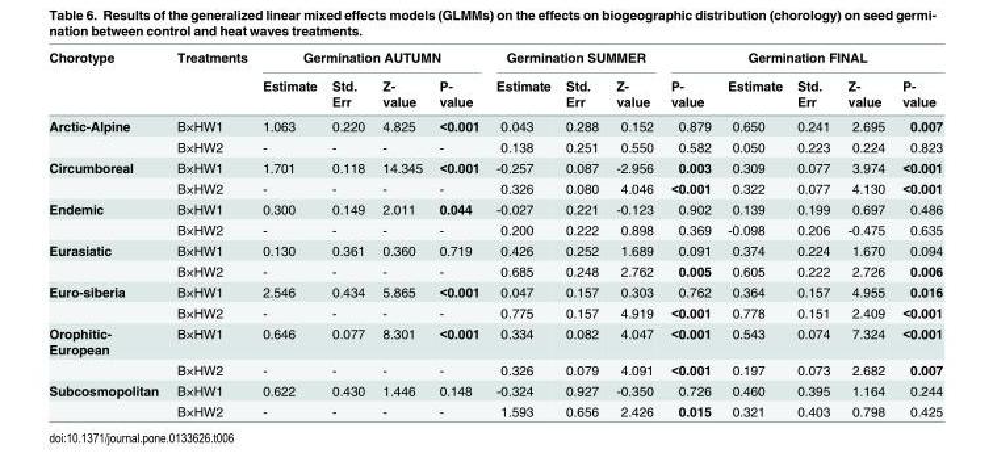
<table><thead><tr><td rowspan="2">Chorotype</td><td rowspan="2">Treatments</td><td colspan="4">Germination AUTUMN</td><td colspan="3">Germination SUMMER</td><td colspan="5">Germination FINAL</td></tr><tr><td>Estimate</td><td>Std. Err</td><td>Z- value</td><td>P- value</td><td>Estimate</td><td>Std. Err</td><td>Z- value</td><td>P- value</td><td>Estimate</td><td>Std. Err</td><td>Z- value</td><td>P- value</td></tr></thead><tbody><tr><td rowspan="2">Arctic-Alpine</td><td>B×HW1</td><td>1.063</td><td>0.220</td><td>4.825</td><td>&lt;0.001</td><td>0.043</td><td>0.288</td><td>0.152</td><td>0.879</td><td>0.650</td><td>0.241</td><td>2.695</td><td>0.007</td></tr><tr><td>B×HW2</td><td>-</td><td>-</td><td>-</td><td>-</td><td>0.138</td><td>0.251</td><td>0.550</td><td>0.582</td><td>0.050</td><td>0.223</td><td>0.224</td><td>0.823</td></tr><tr><td rowspan="2">Circumboreal</td><td>B×HW1</td><td>1.701</td><td>0.118</td><td>14.345</td><td>&lt;0.001</td><td>-0.257</td><td>0.087</td><td>-2.956</td><td>0.003</td><td>0.309</td><td>0.077</td><td>3.974</td><td>&lt;0.001</td></tr><tr><td>B×HW2</td><td>-</td><td>-</td><td>-</td><td>-</td><td>0.326</td><td>0.080</td><td>4.046</td><td>&lt;0.001</td><td>0.322</td><td>0.077</td><td>4.130</td><td>&lt;0.001</td></tr><tr><td rowspan="2">Endemic</td><td>B×HW1</td><td>0.300</td><td>0.149</td><td>2.011</td><td>0.044</td><td>-0.027</td><td>0.221</td><td>-0.123</td><td>0.902</td><td>0.139</td><td>0.199</td><td>0.697</td><td>0.486</td></tr><tr><td>B×HW2</td><td>-</td><td>-</td><td>-</td><td>-</td><td>0.200</td><td>0.222</td><td>0.898</td><td>0.369</td><td>-0.098</td><td>0.206</td><td>-0.475</td><td>0.635</td></tr><tr><td rowspan="2">Eurasiatic</td><td>B×HW1</td><td>0.130</td><td>0.361</td><td>0.360</td><td>0.719</td><td>0.426</td><td>0.252</td><td>1.689</td><td>0.091</td><td>0.374</td><td>0.224</td><td>1.670</td><td>0.094</td></tr><tr><td>B×HW2</td><td>-</td><td>-</td><td>-</td><td>-</td><td>0.685</td><td>0.248</td><td>2.762</td><td>0.005</td><td>0.605</td><td>0.222</td><td>2.726</td><td>0.006</td></tr><tr><td rowspan="2">Euro-siberia</td><td>B×HW1</td><td>2.546</td><td>0.434</td><td>5.865</td><td>&lt;0.001</td><td>0.047</td><td>0.157</td><td>0.303</td><td>0.762</td><td>0.364</td><td>0.157</td><td>4.955</td><td>0.016</td></tr><tr><td>B×HW2</td><td>-</td><td>-</td><td>-</td><td>-</td><td>0.775</td><td>0.157</td><td>4.919</td><td>&lt;0.001</td><td>0.778</td><td>0.151</td><td>2.409</td><td>&lt;0.001</td></tr><tr><td rowspan="2">Orophitic- European</td><td>B×HW1</td><td>0.646</td><td>0.077</td><td>8.301</td><td>&lt;0.001</td><td>0.334</td><td>0.082</td><td>4.047</td><td>&lt;0.001</td><td>0.543</td><td>0.074</td><td>7.324</td><td>&lt;0.001</td></tr><tr><td>B×HW2</td><td>-</td><td>-</td><td>-</td><td>-</td><td>0.326</td><td>0.079</td><td>4.091</td><td>&lt;0.001</td><td>0.197</td><td>0.073</td><td>2.682</td><td>0.007</td></tr><tr><td rowspan="2">Subcosmopolitan</td><td>B×HW1</td><td>0.622</td><td>0.430</td><td>1.446</td><td>0.148</td><td>-0.324</td><td>0.927</td><td>-0.350</td><td>0.726</td><td>0.460</td><td>0.395</td><td>1.164</td><td>0.244</td></tr><tr><td>B×HW2</td><td>-</td><td>-</td><td>-</td><td>-</td><td>1.593</td><td>0.656</td><td>2.426</td><td>0.015</td><td>0.321</td><td>0.403</td><td>0.798</td><td>0.425</td></tr></tbody></table>